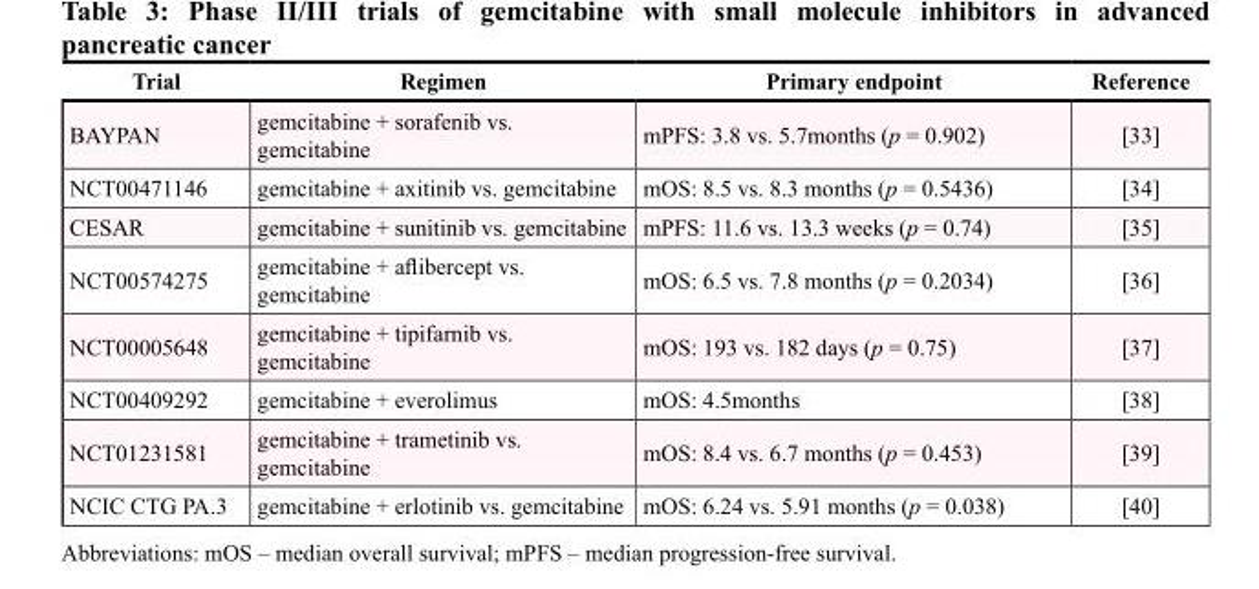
<table><thead><tr><td>Trial</td><td>Regimen</td><td>Primary endpoint</td><td>Reference</td></tr></thead><tbody><tr><td>BAYPAN</td><td>gemcitabine + sorafenib vs. gemcitabine</td><td>mPFS: 3.8 vs. 5.7months (p = 0.902)</td><td>[33]</td></tr><tr><td>NCT00471146</td><td>gemcitabine + axitinib vs. gemcitabine</td><td>mOS: 8.5 vs. 8.3 months (p = 0.5436)</td><td>[34]</td></tr><tr><td>CESAR</td><td>gemcitabine + sunitinib vs. gemcitabine</td><td>mPFS: 11.6 vs. 13.3 weeks (p = 0.74)</td><td>[35]</td></tr><tr><td>NCT00574275</td><td>gemcitabine + aflibercept vs. gemcitabine</td><td>mOS: 6.5 vs. 7.8 months (p = 0.2034)</td><td>[36]</td></tr><tr><td>NCT00005648</td><td>gemcitabine + tipifarnib vs. gemcitabine</td><td>mOS: 193 vs. 182 days (p = 0.75)</td><td>[37]</td></tr><tr><td>NCT00409292</td><td>gemcitabine + everolimus</td><td>mOS: 4.5months</td><td>[38]</td></tr><tr><td>NCT01231581</td><td>gemcitabine + trametinib vs. gemcitabine</td><td>mOS: 8.4 vs. 6.7 months (p = 0.453)</td><td>[39]</td></tr><tr><td>NCIC CTG PA.3</td><td>gemcitabine + erlotinib vs. gemcitabine</td><td>mOS: 6.24 vs. 5.91 months (p = 0.038)</td><td>[40]</td></tr></tbody></table>